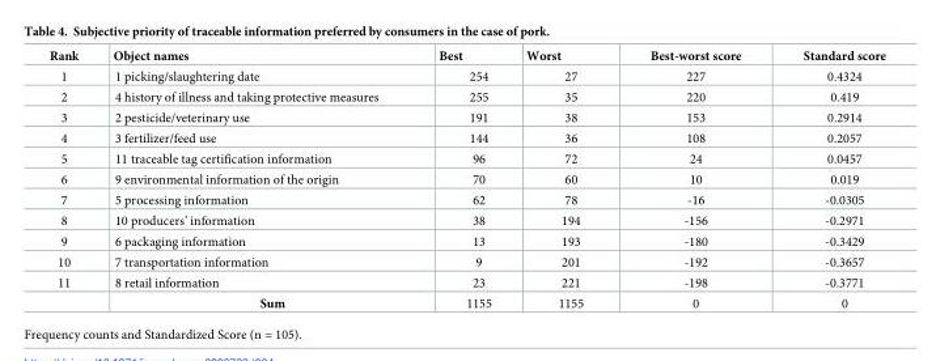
<table><thead><tr><td>Rank</td><td>Object names</td><td>Best</td><td>Worst</td><td>Best-worst score</td><td>Standard score</td></tr></thead><tbody><tr><td>1</td><td>1 picking/slaughtering date</td><td>254</td><td>27</td><td>227</td><td>0.4324</td></tr><tr><td>2</td><td>4 history of illness and taking protective measures</td><td>255</td><td>35</td><td>220</td><td>0.419</td></tr><tr><td>3</td><td>2 pesticide/veterinary use</td><td>191</td><td>38</td><td>153</td><td>0.2914</td></tr><tr><td>4</td><td>3 fertilizer/feed use</td><td>144</td><td>36</td><td>108</td><td>0.2057</td></tr><tr><td>5</td><td>11 traceable tag certification information</td><td>96</td><td>72</td><td>24</td><td>0.0457</td></tr><tr><td>6</td><td>9 environmental information of the origin</td><td>70</td><td>60</td><td>10</td><td>0.019</td></tr><tr><td>7</td><td>5 processing information</td><td>62</td><td>78</td><td>-16</td><td>-0.0305</td></tr><tr><td>8</td><td>10 producers’ information</td><td>38</td><td>194</td><td>-156</td><td>-0.2971</td></tr><tr><td>9</td><td>6 packaging information</td><td>13</td><td>193</td><td>-180</td><td>-0.3429</td></tr><tr><td>10</td><td>7 transportation information</td><td>9</td><td>201</td><td>-192</td><td>-0.3657</td></tr><tr><td rowspan="2">11</td><td>8 retail information</td><td>23</td><td>221</td><td>-198</td><td>-0.3771</td></tr><tr><td>Sum</td><td>1155</td><td>1155</td><td>0</td><td>0</td></tr></tbody></table>